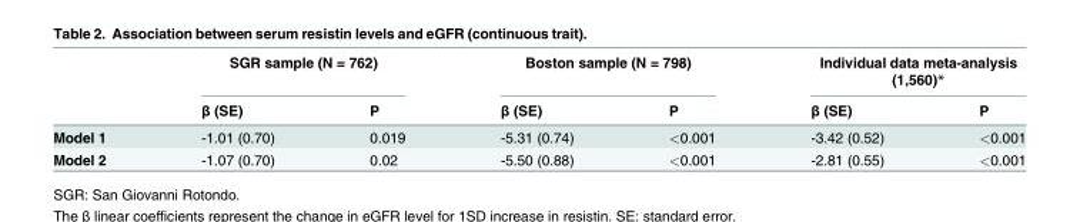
<table><thead><tr><td rowspan="2"></td><td colspan="2">SGR sample (N = 762)</td><td colspan="2">Boston sample (N = 798)</td><td colspan="2">Individual data meta-analysis (1,560)*</td></tr><tr><td>β (SE)</td><td>P</td><td>β (SE)</td><td>P</td><td>β (SE)</td><td>P</td></tr></thead><tbody><tr><td>Model 1</td><td>-1.01 (0.70)</td><td>0.019</td><td>-5.31 (0.74)</td><td>&lt;0.001</td><td>-3.42 (0.52)</td><td>&lt;0.001</td></tr><tr><td>Model 2</td><td>-1.07 (0.70)</td><td>0.02</td><td>-5.50 (0.88)</td><td>&lt;0.001</td><td>-2.81 (0.55)</td><td>&lt;0.001</td></tr></tbody></table>